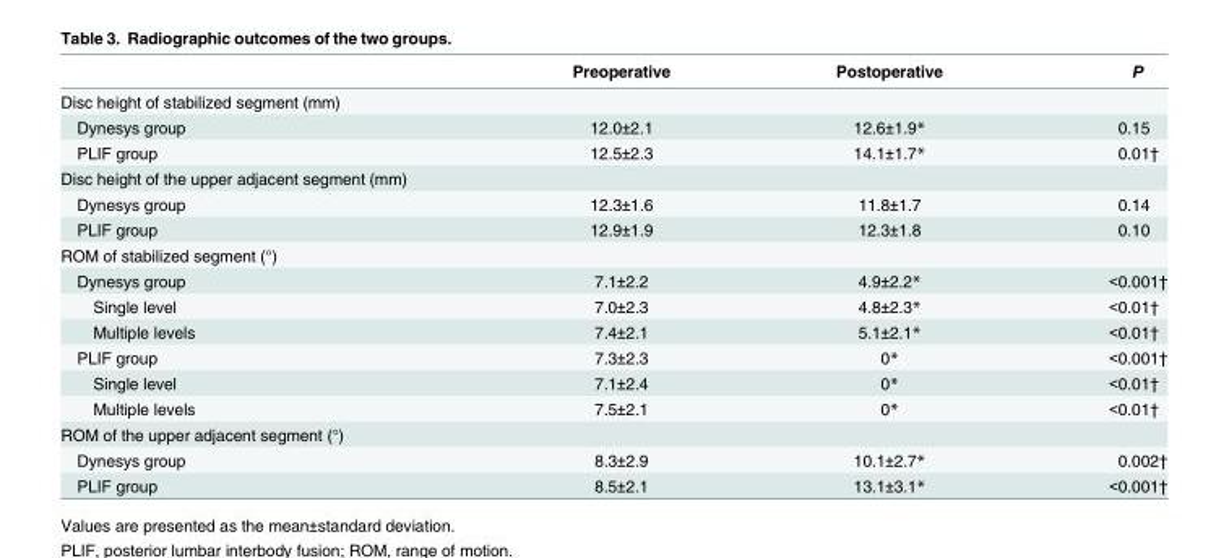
<table><thead><tr><td></td><td>Preoperative</td><td>Postoperative</td><td>P</td></tr></thead><tbody><tr><td colspan="4">Disc height of stabilized segment (mm)</td></tr><tr><td>Dynesys group</td><td>12.0±2.1</td><td>12.6±1.9*</td><td>0.15</td></tr><tr><td>PLIF group</td><td>12.5±2.3</td><td>14.1±1.7*</td><td>0.01†</td></tr><tr><td colspan="4">Disc height of the upper adjacent segment (mm)</td></tr><tr><td>Dynesys group</td><td>12.3±1.6</td><td>11.8±1.7</td><td>0.14</td></tr><tr><td>PLIF group</td><td>12.9±1.9</td><td>12.3±1.8</td><td>0.10</td></tr><tr><td colspan="4">ROM of stabilized segment (°)</td></tr><tr><td>Dynesys group</td><td>7.1±2.2</td><td>4.9±2.2*</td><td>&lt;0.001†</td></tr><tr><td>Single level</td><td>7.0±2.3</td><td>4.8±2.3*</td><td>&lt;0.01†</td></tr><tr><td>Multiple levels</td><td>7.4±2.1</td><td>5.1±2.1*</td><td>&lt;0.01†</td></tr><tr><td>PLIF group</td><td>7.3±2.3</td><td>0*</td><td>&lt;0.001†</td></tr><tr><td>Single level</td><td>7.1±2.4</td><td>0*</td><td>&lt;0.01†</td></tr><tr><td>Multiple levels</td><td>7.5±2.1</td><td>0*</td><td>&lt;0.01†</td></tr><tr><td colspan="4">ROM of the upper adjacent segment (°)</td></tr><tr><td>Dynesys group</td><td>8.3±2.9</td><td>10.1±2.7*</td><td>0.002†</td></tr><tr><td>PLIF group</td><td>8.5±2.1</td><td>13.1±3.1*</td><td>&lt;0.001†</td></tr></tbody></table>